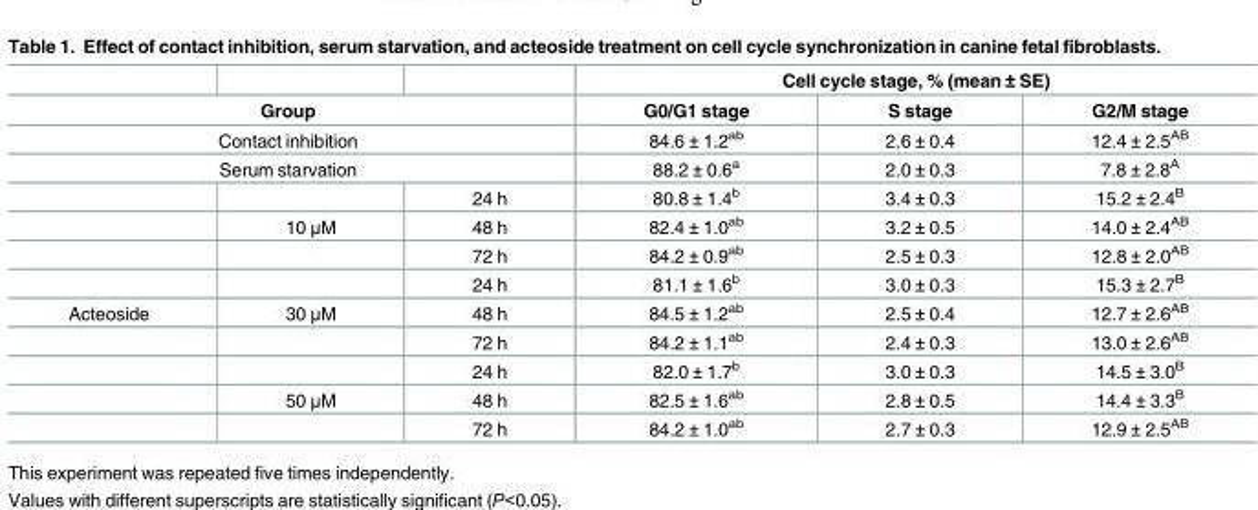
<table><thead><tr><td></td><td></td><td></td><td colspan="3">Cell cycle stage, % (mean ± SE)</td></tr><tr><td colspan="3">Group</td><td>G0/G1 stage</td><td>S stage</td><td>G2/M stage</td></tr></thead><tbody><tr><td colspan="3">Contact inhibition</td><td>84.6 ± 1.2<sup>ab</sup></td><td>2.6 ± 0.4</td><td>12.4 ± 2.5<sup>AB</sup></td></tr><tr><td colspan="3">Serum starvation</td><td>88.2 ± 0.6<sup>a</sup></td><td>2.0 ± 0.3</td><td>7.8 ± 2.8<sup>A</sup></td></tr><tr><td></td><td></td><td>24 h</td><td>80.8 ± 1.4<sup>b</sup></td><td>3.4 ± 0.3</td><td>15.2 ± 2.4<sup>B</sup></td></tr><tr><td></td><td>10 μM</td><td>48 h</td><td>82.4 ± 1.0<sup>ab</sup></td><td>3.2 ± 0.5</td><td>14.0 ± 2.4<sup>AB</sup></td></tr><tr><td></td><td></td><td>72 h</td><td>84.2 ± 0.9<sup>ab</sup></td><td>2.5 ± 0.3</td><td>12.8 ± 2.0<sup>AB</sup></td></tr><tr><td></td><td></td><td>24 h</td><td>81.1 ± 1.6<sup>b</sup></td><td>3.0 ± 0.3</td><td>15.3 ± 2.7<sup>B</sup></td></tr><tr><td rowspan="5">Acteoside</td><td>30 μM</td><td>48 h</td><td>84.5 ± 1.2<sup>ab</sup></td><td>2.5 ± 0.4</td><td>12.7 ± 2.6<sup>AB</sup></td></tr><tr><td></td><td>72 h</td><td>84.2 ± 1.1<sup>ab</sup></td><td>2.4 ± 0.3</td><td>13.0 ± 2.6<sup>AB</sup></td></tr><tr><td></td><td>24 h</td><td>82.0 ± 1.7<sup>b</sup></td><td>3.0 ± 0.3</td><td>14.5 ± 3.0<sup>B</sup></td></tr><tr><td>50 μM</td><td>48 h</td><td>82.5 ± 1.6<sup>ab</sup></td><td>2.8 ± 0.5</td><td>14.4 ± 3.3<sup>B</sup></td></tr><tr><td></td><td>72 h</td><td>84.2 ± 1.0<sup>ab</sup></td><td>2.7 ± 0.3</td><td>12.9 ± 2.5<sup>AB</sup></td></tr></tbody></table>